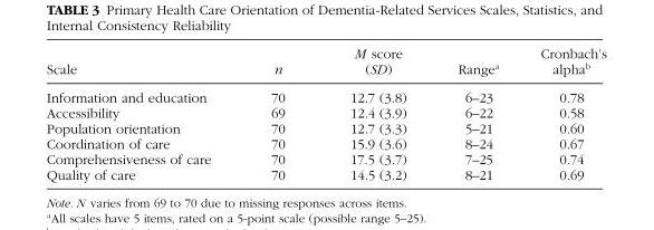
<table><thead><tr><td>Scale</td><td>n</td><td>M score (SD)</td><td>Range<sup>a</sup></td><td>Cronbach’s alpha<sup>b</sup></td></tr></thead><tbody><tr><td>Information and education</td><td>70</td><td>12.7 (3.8)</td><td>6–23</td><td>0.78</td></tr><tr><td>Accessibility</td><td>69</td><td>12.4 (3.9)</td><td>6–22</td><td>0.58</td></tr><tr><td>Population orientation</td><td>70</td><td>12.7 (3.3)</td><td>5–21</td><td>0.60</td></tr><tr><td>Coordination of care</td><td>70</td><td>15.9 (3.6)</td><td>8–24</td><td>0.67</td></tr><tr><td>Comprehensiveness of care</td><td>70</td><td>17.5 (3.7)</td><td>7–25</td><td>0.74</td></tr><tr><td>Quality of care</td><td>70</td><td>14.5 (3.2)</td><td>8–21</td><td>0.69</td></tr></tbody></table>